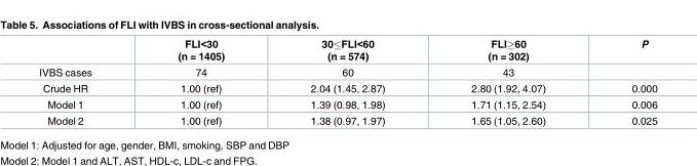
<table><thead><tr><td></td><td>FLI&lt;30 (n = 1405)</td><td>30≤FLI&lt;60 (n = 574)</td><td>FLI≥60 (n = 302)</td><td>P</td></tr></thead><tbody><tr><td>IVBS cases</td><td>74</td><td>60</td><td>43</td><td></td></tr><tr><td>Crude HR</td><td>1.00 (ref)</td><td>2.04 (1.45, 2.87)</td><td>2.80 (1.92, 4.07)</td><td>0.000</td></tr><tr><td>Model 1</td><td>1.00 (ref)</td><td>1.39 (0.98, 1.98)</td><td>1.71 (1.15, 2.54)</td><td>0.006</td></tr><tr><td>Model 2</td><td>1.00 (ref)</td><td>1.38 (0.97, 1.97)</td><td>1.65 (1.05, 2.60)</td><td>0.025</td></tr></tbody></table>